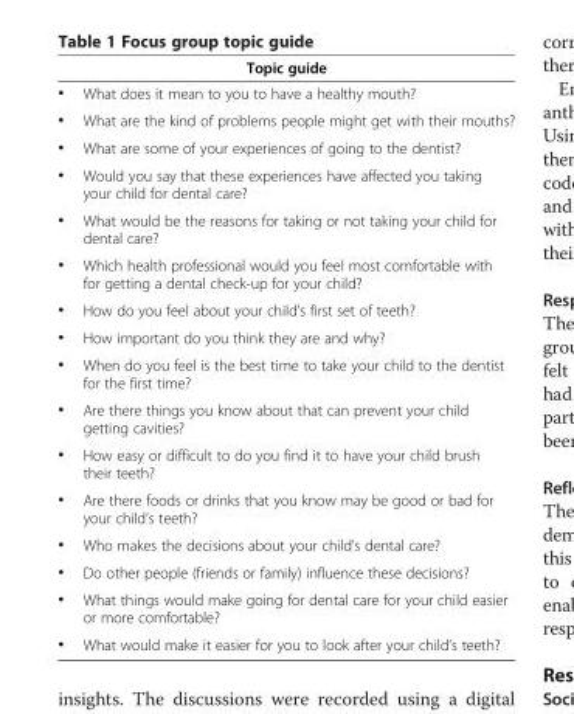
<table><thead><tr><td></td><td>Topic guide</td></tr></thead><tbody><tr><td>•</td><td>What does it mean to you to have a healthy mouth?</td></tr><tr><td>•</td><td>What are the kind of problems people might get with their mouths?</td></tr><tr><td>•</td><td>What are some of your experiences of going to the dentist?</td></tr><tr><td>•</td><td>Would you say that these experiences have affected you taking your child for dental care?</td></tr><tr><td>•</td><td>What would be the reasons for taking or not taking your child for dental care?</td></tr><tr><td>•</td><td>Which health professional would you feel most comfortable with for getting a dental check-up for your child?</td></tr><tr><td>•</td><td>How do you feel about your child’s first set of teeth?</td></tr><tr><td>•</td><td>How important do you think they are and why?</td></tr><tr><td>•</td><td>When do you feel is the best time to take your child to the dentist for the first time?</td></tr><tr><td>•</td><td>Are there things you know about that can prevent your child getting cavities?</td></tr><tr><td>•</td><td>How easy or difficult to do you find it to have your child brush their teeth?</td></tr><tr><td>•</td><td>Are there foods or drinks that you know may be good or bad for your child’s teeth?</td></tr><tr><td>•</td><td>Who makes the decisions about your child’s dental care?</td></tr><tr><td>•</td><td>Do other people (friends or family) influence these decisions?</td></tr><tr><td>•</td><td>What things would make going for dental care for your child easier or more comfortable?</td></tr><tr><td>•</td><td>What would make it easier for you to look after your child’s teeth?</td></tr></tbody></table>